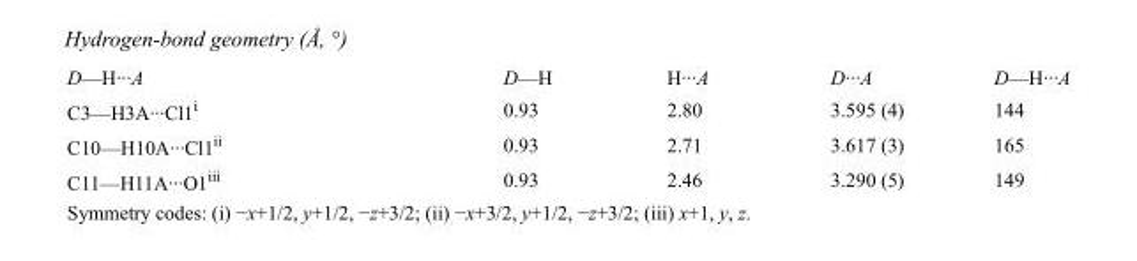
<table><tbody><tr><td>D—H···A</td><td>D—H</td><td>H···A</td><td>D···A</td><td>D—H···A</td></tr><tr><td>C3—H3A···Cl1<sup>i</sup></td><td>0.93</td><td>2.80</td><td>3.595 (4)</td><td>144</td></tr><tr><td>C10—H10A···Cl1<sup>ii</sup></td><td>0.93</td><td>2.71</td><td>3.617 (3)</td><td>165</td></tr><tr><td>C11—H11A···O1<sup>iii</sup></td><td>0.93</td><td>2.46</td><td>3.290 (5)</td><td>149</td></tr></tbody></table>